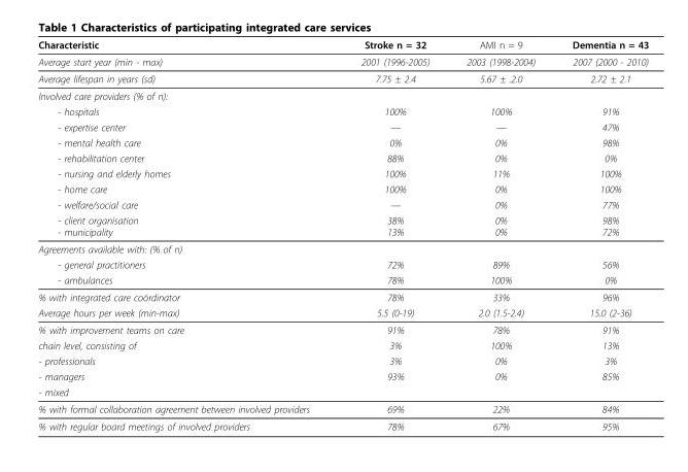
<table><thead><tr><td>Characteristic</td><td>Stroke n = 32</td><td>AMI n = 9</td><td>Dementia n = 43</td></tr></thead><tbody><tr><td>Average start year (min - max)</td><td>2001 (1996-2005)</td><td>2003 (1998-2004)</td><td>2007 (2000 - 2010)</td></tr><tr><td>Average lifespan in years (sd)</td><td>7.75 ± 2.4</td><td>5.67 ± .2.0</td><td>2.72 ± 2.1</td></tr><tr><td colspan="4">Involved care providers (% of n):</td></tr><tr><td>- hospitals</td><td>100%</td><td>100%</td><td>91%</td></tr><tr><td>- expertise center</td><td>—</td><td>—</td><td>47%</td></tr><tr><td>- mental health care</td><td>0%</td><td>0%</td><td>98%</td></tr><tr><td>- rehabilitation center</td><td>88%</td><td>0%</td><td>0%</td></tr><tr><td>- nursing and elderly homes</td><td>100%</td><td>11%</td><td>100%</td></tr><tr><td>- home care</td><td>100%</td><td>0%</td><td>100%</td></tr><tr><td>- welfare/social care</td><td>—</td><td>0%</td><td>77%</td></tr><tr><td>- client organisation - municipality</td><td>38% 13%</td><td>0% 0%</td><td>98% 72%</td></tr><tr><td colspan="4">Agreements available with: (% of n)</td></tr><tr><td>- general practitioners</td><td>72%</td><td>89%</td><td>56%</td></tr><tr><td>- ambulances</td><td>78%</td><td>100%</td><td>0%</td></tr><tr><td>% with integrated care coördinator</td><td>78%</td><td>33%</td><td>96%</td></tr><tr><td>Average hours per week (min-max)</td><td>5.5 (0-19)</td><td>2.0 (1.5-2.4)</td><td>15.0 (2-36)</td></tr><tr><td>% with improvement teams on care</td><td>91%</td><td>78%</td><td>91%</td></tr><tr><td>chain level, consisting of</td><td>3%</td><td>100%</td><td>13%</td></tr><tr><td>- professionals</td><td>3%</td><td>0%</td><td>3%</td></tr><tr><td>- managers</td><td>93%</td><td>0%</td><td>85%</td></tr><tr><td colspan="4">- mixed</td></tr><tr><td>% with formal collaboration agreement between involved providers</td><td>69%</td><td>22%</td><td>84%</td></tr><tr><td>% with regular board meetings of involved providers</td><td>78%</td><td>67%</td><td>95%</td></tr></tbody></table>